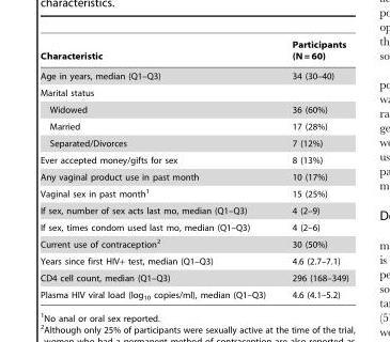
<table><thead><tr><td>Characteristic</td><td>Participants (N = 60)</td></tr></thead><tbody><tr><td>Age in years, median (Q1–Q3)</td><td>34 (30–40)</td></tr><tr><td colspan="2">Marital status</td></tr><tr><td>Widowed</td><td>36 (60%)</td></tr><tr><td>Married</td><td>17 (28%)</td></tr><tr><td>Separated/Divorces</td><td>7 (12%)</td></tr><tr><td>Ever accepted money/gifts for sex</td><td>8 (13%)</td></tr><tr><td>Any vaginal product use in past month</td><td>10 (17%)</td></tr><tr><td>Vaginal sex in past month<sup>1</sup></td><td>15 (25%)</td></tr><tr><td>If sex, number of sex acts last mo, median (Q1–Q3)</td><td>4 (2–9)</td></tr><tr><td>If sex, times condom used last mo, median (Q1–Q3)</td><td>4 (2–6)</td></tr><tr><td>Current use of contraception<sup>2</sup></td><td>30 (50%)</td></tr><tr><td>Years since first HIV+ test, median (Q1–Q3)</td><td>4.6 (2.7–7.1)</td></tr><tr><td>CD4 cell count, median (Q1–Q3)</td><td>296 (168–349)</td></tr><tr><td>Plasma HIV viral load (log<sub>10</sub> copies/ml), median (Q1–Q3)</td><td>4.6 (4.1–5.2)</td></tr></tbody></table>